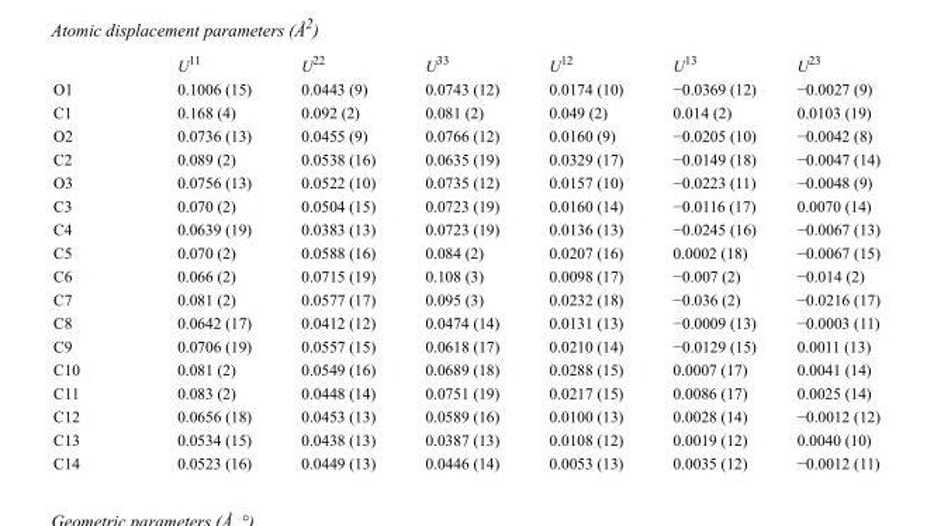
<table><thead><tr><td></td><td>U<sup>11</sup></td><td>U<sup>22</sup></td><td>U<sup>33</sup></td><td>U<sup>12</sup></td><td>U<sup>13</sup></td><td>U<sup>23</sup></td></tr></thead><tbody><tr><td>O1</td><td>0.1006 (15)</td><td>0.0443 (9)</td><td>0.0743 (12)</td><td>0.0174 (10)</td><td>−0.0369 (12)</td><td>−0.0027 (9)</td></tr><tr><td>C1</td><td>0.168 (4)</td><td>0.092 (2)</td><td>0.081 (2)</td><td>0.049 (2)</td><td>0.014 (2)</td><td>0.0103 (19)</td></tr><tr><td>O2</td><td>0.0736 (13)</td><td>0.0455 (9)</td><td>0.0766 (12)</td><td>0.0160 (9)</td><td>−0.0205 (10)</td><td>−0.0042 (8)</td></tr><tr><td>C2</td><td>0.089 (2)</td><td>0.0538 (16)</td><td>0.0635 (19)</td><td>0.0329 (17)</td><td>−0.0149 (18)</td><td>−0.0047 (14)</td></tr><tr><td>O3</td><td>0.0756 (13)</td><td>0.0522 (10)</td><td>0.0735 (12)</td><td>0.0157 (10)</td><td>−0.0223 (11)</td><td>−0.0048 (9)</td></tr><tr><td>C3</td><td>0.070 (2)</td><td>0.0504 (15)</td><td>0.0723 (19)</td><td>0.0160 (14)</td><td>−0.0116 (17)</td><td>0.0070 (14)</td></tr><tr><td>C4</td><td>0.0639 (19)</td><td>0.0383 (13)</td><td>0.0723 (19)</td><td>0.0136 (13)</td><td>−0.0245 (16)</td><td>−0.0067 (13)</td></tr><tr><td>C5</td><td>0.070 (2)</td><td>0.0588 (16)</td><td>0.084 (2)</td><td>0.0207 (16)</td><td>0.0002 (18)</td><td>−0.0067 (15)</td></tr><tr><td>C6</td><td>0.066 (2)</td><td>0.0715 (19)</td><td>0.108 (3)</td><td>0.0098 (17)</td><td>−0.007 (2)</td><td>−0.014 (2)</td></tr><tr><td>C7</td><td>0.081 (2)</td><td>0.0577 (17)</td><td>0.095 (3)</td><td>0.0232 (18)</td><td>−0.036 (2)</td><td>−0.0216 (17)</td></tr><tr><td>C8</td><td>0.0642 (17)</td><td>0.0412 (12)</td><td>0.0474 (14)</td><td>0.0131 (13)</td><td>−0.0009 (13)</td><td>−0.0003 (11)</td></tr><tr><td>C9</td><td>0.0706 (19)</td><td>0.0557 (15)</td><td>0.0618 (17)</td><td>0.0210 (14)</td><td>−0.0129 (15)</td><td>0.0011 (13)</td></tr><tr><td>C10</td><td>0.081 (2)</td><td>0.0549 (16)</td><td>0.0689 (18)</td><td>0.0288 (15)</td><td>0.0007 (17)</td><td>0.0041 (14)</td></tr><tr><td>C11</td><td>0.083 (2)</td><td>0.0448 (14)</td><td>0.0751 (19)</td><td>0.0217 (15)</td><td>0.0086 (17)</td><td>0.0025 (14)</td></tr><tr><td>C12</td><td>0.0656 (18)</td><td>0.0453 (13)</td><td>0.0589 (16)</td><td>0.0100 (13)</td><td>0.0028 (14)</td><td>−0.0012 (12)</td></tr><tr><td>C13</td><td>0.0534 (15)</td><td>0.0438 (13)</td><td>0.0387 (13)</td><td>0.0108 (12)</td><td>0.0019 (12)</td><td>0.0040 (10)</td></tr><tr><td>C14</td><td>0.0523 (16)</td><td>0.0449 (13)</td><td>0.0446 (14)</td><td>0.0053 (13)</td><td>0.0035 (12)</td><td>−0.0012 (11)</td></tr></tbody></table>